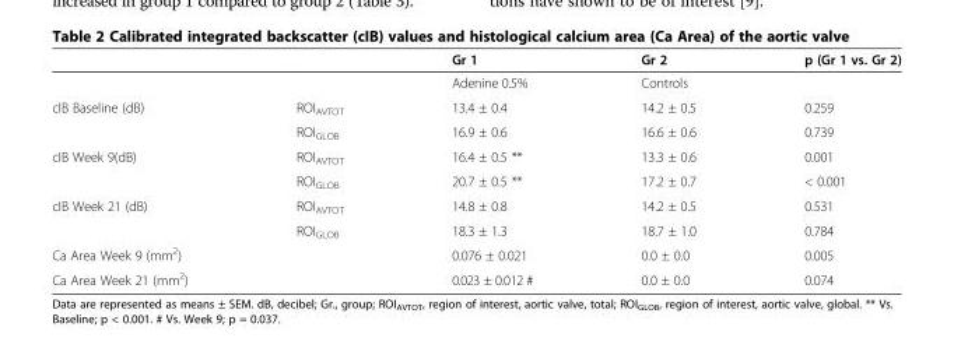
<table><thead><tr><td></td><td></td><td>Gr 1</td><td>Gr 2</td><td>p (Gr 1 vs. Gr 2)</td></tr></thead><tbody><tr><td></td><td></td><td>Adenine 0.5%</td><td>Controls</td><td></td></tr><tr><td rowspan="2">cIB Baseline (dB)</td><td>ROI<sub>AVTOT</sub></td><td>13.4 ± 0.4</td><td>14.2 ± 0.5</td><td>0.259</td></tr><tr><td>ROI<sub>GLOB</sub></td><td>16.9 ± 0.6</td><td>16.6 ± 0.6</td><td>0.739</td></tr><tr><td rowspan="2">cIB Week 9(dB)</td><td>ROI<sub>AVTOT</sub></td><td>16.4 ± 0.5 **</td><td>13.3 ± 0.6</td><td>0.001</td></tr><tr><td>ROI<sub>GLOB</sub></td><td>20.7 ± 0.5 **</td><td>17.2 ± 0.7</td><td>&lt; 0.001</td></tr><tr><td rowspan="2">cIB Week 21 (dB)</td><td>ROI<sub>AVTOT</sub></td><td>14.8 ± 0.8</td><td>14.2 ± 0.5</td><td>0.531</td></tr><tr><td>ROI<sub>GLOB</sub></td><td>18.3 ± 1.3</td><td>18.7 ± 1.0</td><td>0.784</td></tr><tr><td>Ca Area Week 9 (mm<sup>2</sup>)</td><td></td><td>0.076 ± 0.021</td><td>0.0 ± 0.0</td><td>0.005</td></tr><tr><td>Ca Area Week 21 (mm<sup>2</sup>)</td><td></td><td>0.023 ± 0.012 #</td><td>0.0 ± 0.0</td><td>0.074</td></tr></tbody></table>